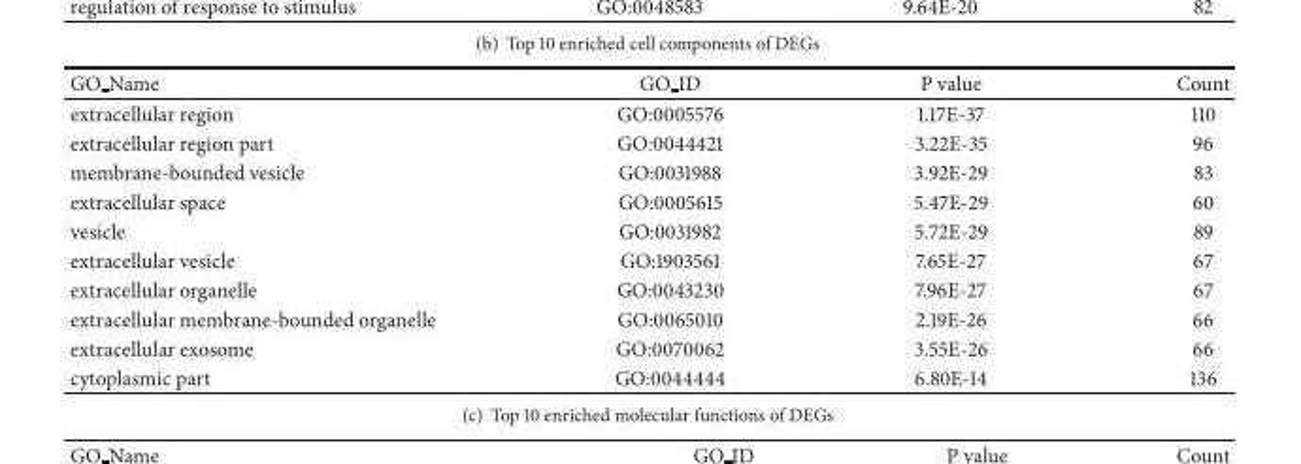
<table><thead><tr><td>GO Name</td><td>GO ID</td><td>P value</td><td>Count</td></tr></thead><tbody><tr><td>extracellular region</td><td>GO:0005576</td><td>1.17E-37</td><td>110</td></tr><tr><td>extracellular region part</td><td>GO:0044421</td><td>3.22E-35</td><td>96</td></tr><tr><td>membrane-bounded vesicle</td><td>GO:0031988</td><td>3.92E-29</td><td>83</td></tr><tr><td>extracellular space</td><td>GO:0005615</td><td>5.47E-29</td><td>60</td></tr><tr><td>vesicle</td><td>GO:0031982</td><td>5.72E-29</td><td>89</td></tr><tr><td>extracellular vesicle</td><td>GO:1903561</td><td>7.65E-27</td><td>67</td></tr><tr><td>extracellular organelle</td><td>GO:0043230</td><td>7.96E-27</td><td>67</td></tr><tr><td>extracellular membrane-bounded organelle</td><td>GO:0065010</td><td>2.19E-26</td><td>66</td></tr><tr><td>extracellular exosome</td><td>GO:0070062</td><td>3.55E-26</td><td>66</td></tr><tr><td>cytoplasmic part</td><td>GO:0044444</td><td>6.80E-14</td><td>136</td></tr></tbody></table>